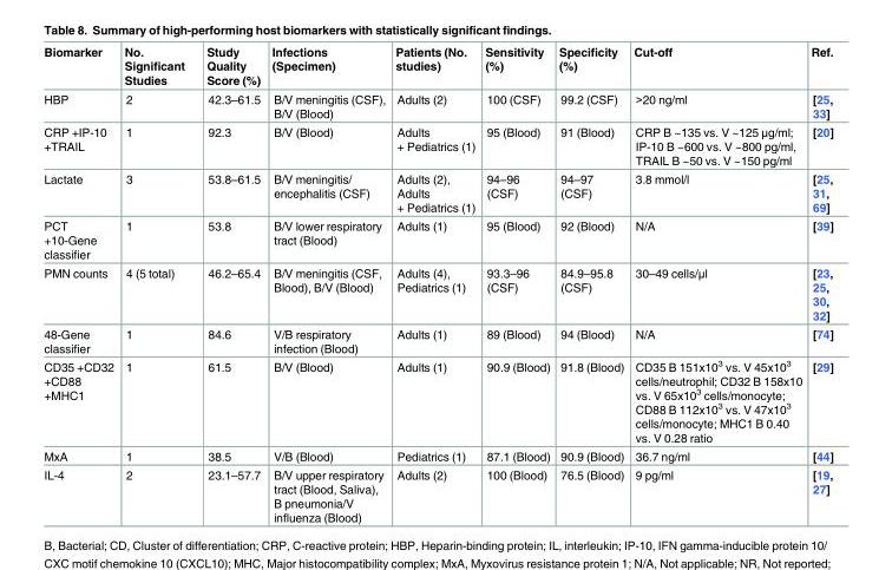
<table><thead><tr><td>Biomarker</td><td>No. Significant Studies</td><td>Study Quality Score (%)</td><td>Infections (Specimen)</td><td>Patients (No. studies)</td><td>Sensitivity (%)</td><td>Specificity (%)</td><td>Cut-off</td><td>Ref.</td></tr></thead><tbody><tr><td>HBP</td><td>2</td><td>42.3–61.5</td><td>B/V meningitis (CSF), B/V (Blood)</td><td>Adults (2)</td><td>100 (CSF)</td><td>99.2 (CSF)</td><td>&gt;20 ng/ml</td><td>[25, 33]</td></tr><tr><td>CRP +IP-10 +TRAIL</td><td>1</td><td>92.3</td><td>B/V (Blood)</td><td>Adults + Pediatrics (1)</td><td>95 (Blood)</td><td>91 (Blood)</td><td>CRP B ~135 vs. V ~125 μg/ml; IP-10 B ~600 vs. V ~800 pg/ml, TRAIL B ~50 vs. V ~150 pg/ml</td><td>[20]</td></tr><tr><td>Lactate</td><td>3</td><td>53.8–61.5</td><td>B/V meningitis/ encephalitis (CSF)</td><td>Adults (2), Adults + Pediatrics (1)</td><td>94–96 (CSF)</td><td>94–97 (CSF)</td><td>3.8 mmol/l</td><td>[25, 31, 69]</td></tr><tr><td>PCT +10-Gene classifier</td><td>1</td><td>53.8</td><td>B/V lower respiratory tract (Blood)</td><td>Adults (1)</td><td>95 (Blood)</td><td>92 (Blood)</td><td>N/A</td><td>[39]</td></tr><tr><td>PMN counts</td><td>4 (5 total)</td><td>46.2–65.4</td><td>B/V meningitis (CSF, Blood), B/V (Blood)</td><td>Adults (4), Pediatrics (1)</td><td>93.3–96 (CSF)</td><td>84.9–95.8 (CSF)</td><td>30–49 cells/μl</td><td>[23, 25, 30, 32]</td></tr><tr><td>48-Gene classifier</td><td>1</td><td>84.6</td><td>V/B respiratory infection (Blood)</td><td>Adults (1)</td><td>89 (Blood)</td><td>94 (Blood)</td><td>N/A</td><td>[74]</td></tr><tr><td>CD35 +CD32 +CD88 +MHC1</td><td>1</td><td>61.5</td><td>B/V (Blood)</td><td>Adults (1)</td><td>90.9 (Blood)</td><td>91.8 (Blood)</td><td>CD35 B 151x10<sup>3</sup> vs. V 45x10<sup>3</sup> cells/neutrophil; CD32 B 158x10 vs. V 65x10<sup>3</sup> cells/monocyte; CD88 B 112x10<sup>3</sup> vs. V 47x10<sup>3</sup> cells/monocyte; MHC1 B 0.40 vs. V 0.28 ratio</td><td>[29]</td></tr><tr><td>MxA</td><td>1</td><td>38.5</td><td>V/B (Blood)</td><td>Pediatrics (1)</td><td>87.1 (Blood)</td><td>90.9 (Blood)</td><td>36.7 ng/ml</td><td>[44]</td></tr><tr><td>IL-4</td><td>2</td><td>23.1–57.7</td><td>B/V upper respiratory tract (Blood, Saliva), B pneumonia/V influenza (Blood)</td><td>Adults (2)</td><td>100 (Blood)</td><td>76.5 (Blood)</td><td>9 pg/ml</td><td>[19, 27]</td></tr></tbody></table>